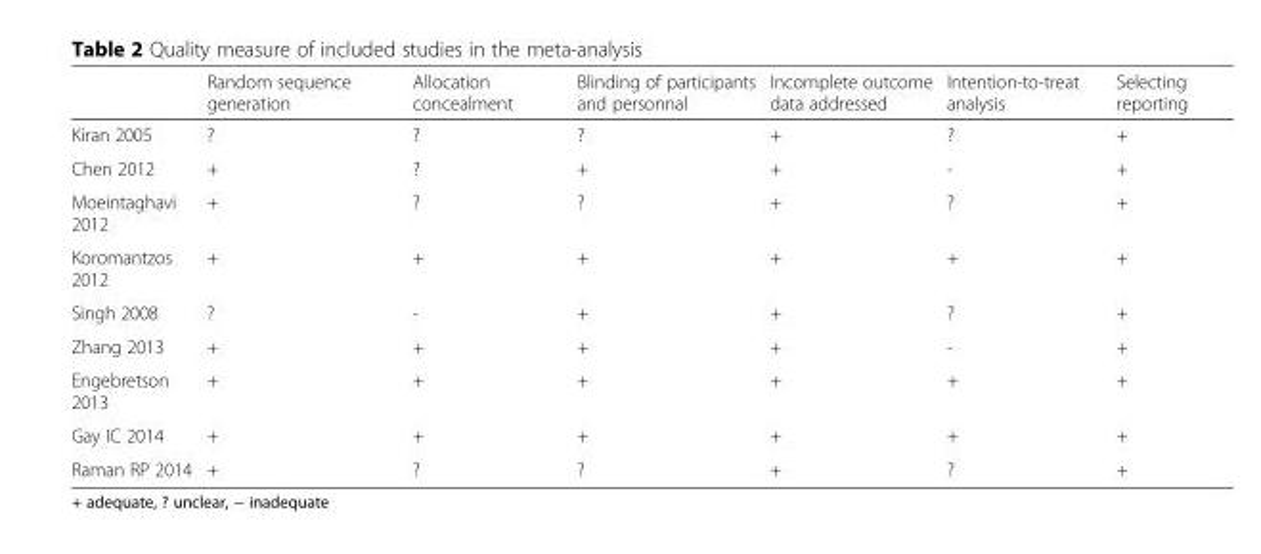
<table><thead><tr><td></td><td>Random sequence generation</td><td>Allocation concealment</td><td>Blinding of participants and personnal</td><td>Incomplete outcome data addressed</td><td>Intention-to-treat analysis</td><td>Selecting reporting</td></tr></thead><tbody><tr><td>Kiran 2005</td><td>?</td><td>?</td><td>?</td><td>+</td><td>?</td><td>+</td></tr><tr><td>Chen 2012</td><td>+</td><td>?</td><td>+</td><td>+</td><td>-</td><td>+</td></tr><tr><td>Moeintaghavi 2012</td><td>+</td><td>?</td><td>?</td><td>+</td><td>?</td><td>+</td></tr><tr><td>Koromantzos 2012</td><td>+</td><td>+</td><td>+</td><td>+</td><td>+</td><td>+</td></tr><tr><td>Singh 2008</td><td>?</td><td>-</td><td>+</td><td>+</td><td>?</td><td>+</td></tr><tr><td>Zhang 2013</td><td>+</td><td>+</td><td>+</td><td>+</td><td>-</td><td>+</td></tr><tr><td>Engebretson 2013</td><td>+</td><td>+</td><td>+</td><td>+</td><td>+</td><td>+</td></tr><tr><td>Gay IC 2014</td><td>+</td><td>+</td><td>+</td><td>+</td><td>+</td><td>+</td></tr><tr><td>Raman RP 2014</td><td>+</td><td>?</td><td>?</td><td>+</td><td>?</td><td>+</td></tr></tbody></table>